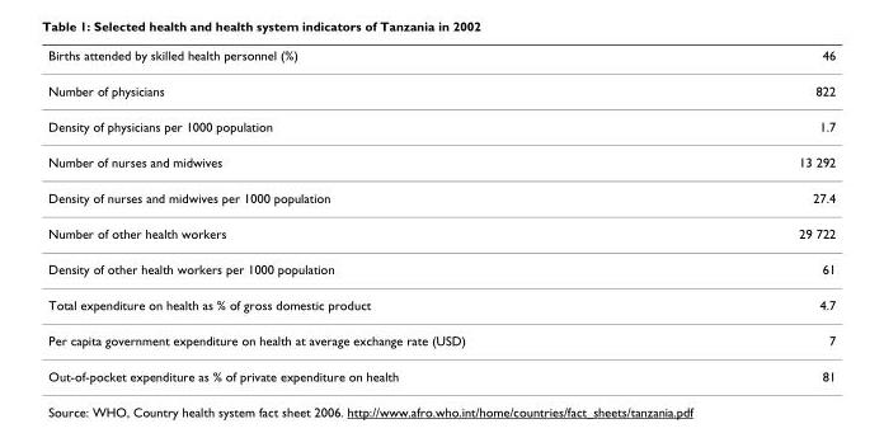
<table><thead><tr><td>Births attended by skilled health personnel (%)</td><td>46</td></tr></thead><tbody><tr><td>Number of physicians</td><td>822</td></tr><tr><td>Density of physicians per 1000 population</td><td>1.7</td></tr><tr><td>Number of nurses and midwives</td><td>13 292</td></tr><tr><td>Density of nurses and midwives per 1000 population</td><td>27.4</td></tr><tr><td>Number of other health workers</td><td>29 722</td></tr><tr><td>Density of other health workers per 1000 population</td><td>61</td></tr><tr><td>Total expenditure on health as % of gross domestic product</td><td>4.7</td></tr><tr><td>Per capita government expenditure on health at average exchange rate (USD)</td><td>7</td></tr><tr><td>Out-of-pocket expenditure as % of private expenditure on health</td><td>81</td></tr></tbody></table>